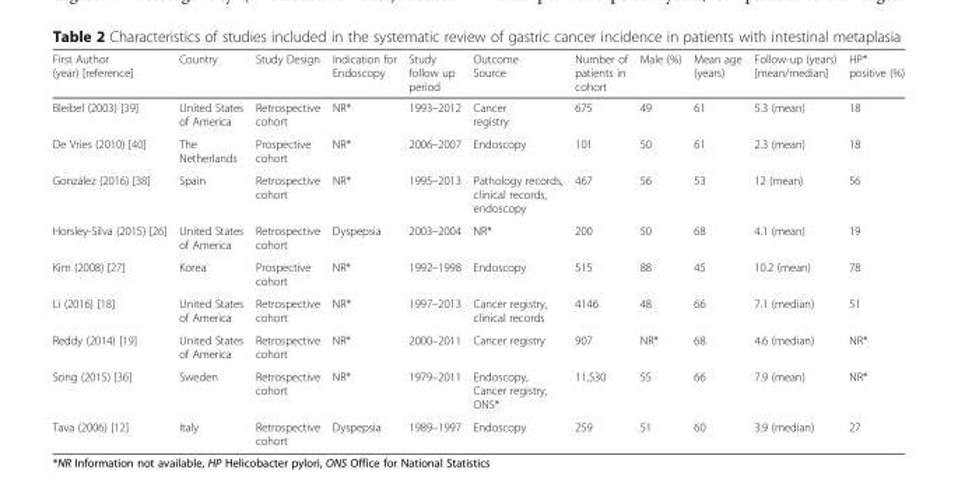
<table><thead><tr><td>First Author (year) [reference]</td><td>Country</td><td>Study Design</td><td>Indication for Endoscopy</td><td>Study follow up period</td><td>Outcome Source</td><td>Number of patients in cohort</td><td>Male (%)</td><td>Mean age (years)</td><td>Follow-up (years) [mean/median]</td><td>HP* positive (%)</td></tr></thead><tbody><tr><td>Bleibel (2003) [39]</td><td>United States of America</td><td>Retrospective cohort</td><td>NR*</td><td>1993–2012</td><td>Cancer registry</td><td>675</td><td>49</td><td>61</td><td>5.3 (mean)</td><td>18</td></tr><tr><td>De Vries (2010) [40]</td><td>The Netherlands</td><td>Prospective cohort</td><td>NR*</td><td>2006–2007</td><td>Endoscopy</td><td>101</td><td>50</td><td>61</td><td>2.3 (mean)</td><td>18</td></tr><tr><td>González (2016) [38]</td><td>Spain</td><td>Retrospective cohort</td><td>NR*</td><td>1995–2013</td><td>Pathology records, clinical records, endoscopy</td><td>467</td><td>56</td><td>53</td><td>12 (mean)</td><td>56</td></tr><tr><td>Horsley-Silva (2015) [26]</td><td>United States of America</td><td>Retrospective cohort</td><td>Dyspepsia</td><td>2003–2004</td><td>NR*</td><td>200</td><td>50</td><td>68</td><td>4.1 (mean)</td><td>19</td></tr><tr><td>Kim (2008) [27]</td><td>Korea</td><td>Prospective cohort</td><td>NR*</td><td>1992–1998</td><td>Endoscopy</td><td>515</td><td>88</td><td>45</td><td>10.2 (mean)</td><td>78</td></tr><tr><td>Li (2016) [18]</td><td>United States of America</td><td>Retrospective cohort</td><td>NR*</td><td>1997–2013</td><td>Cancer registry, clinical records</td><td>4146</td><td>48</td><td>66</td><td>7.1 (median)</td><td>51</td></tr><tr><td>Reddy (2014) [19]</td><td>United States of America</td><td>Retrospective cohort</td><td>NR*</td><td>2000–2011</td><td>Cancer registry</td><td>907</td><td>NR*</td><td>68</td><td>4.6 (median)</td><td>NR*</td></tr><tr><td>Song (2015) [36]</td><td>Sweden</td><td>Retrospective cohort</td><td>NR*</td><td>1979–2011</td><td>Endoscopy, Cancer registry, ONS*</td><td>11,530</td><td>55</td><td>66</td><td>7.9 (mean)</td><td>NR*</td></tr><tr><td>Tava (2006) [12]</td><td>Italy</td><td>Retrospective cohort</td><td>Dyspepsia</td><td>1989–1997</td><td>Endoscopy</td><td>259</td><td>51</td><td>60</td><td>3.9 (median)</td><td>27</td></tr></tbody></table>